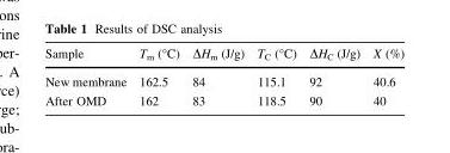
<table><thead><tr><td>Sample</td><td>T<sub>m</sub> (°C)</td><td>∆H<sub>m</sub> (J/g)</td><td>T<sub>C</sub> (°C)</td><td>∆H<sub>C</sub> (J/g)</td><td>X (%)</td></tr></thead><tbody><tr><td>New membrane</td><td>162.5</td><td>84</td><td>115.1</td><td>92</td><td>40.6</td></tr><tr><td>After OMD</td><td>162</td><td>83</td><td>118.5</td><td>90</td><td>40</td></tr></tbody></table>